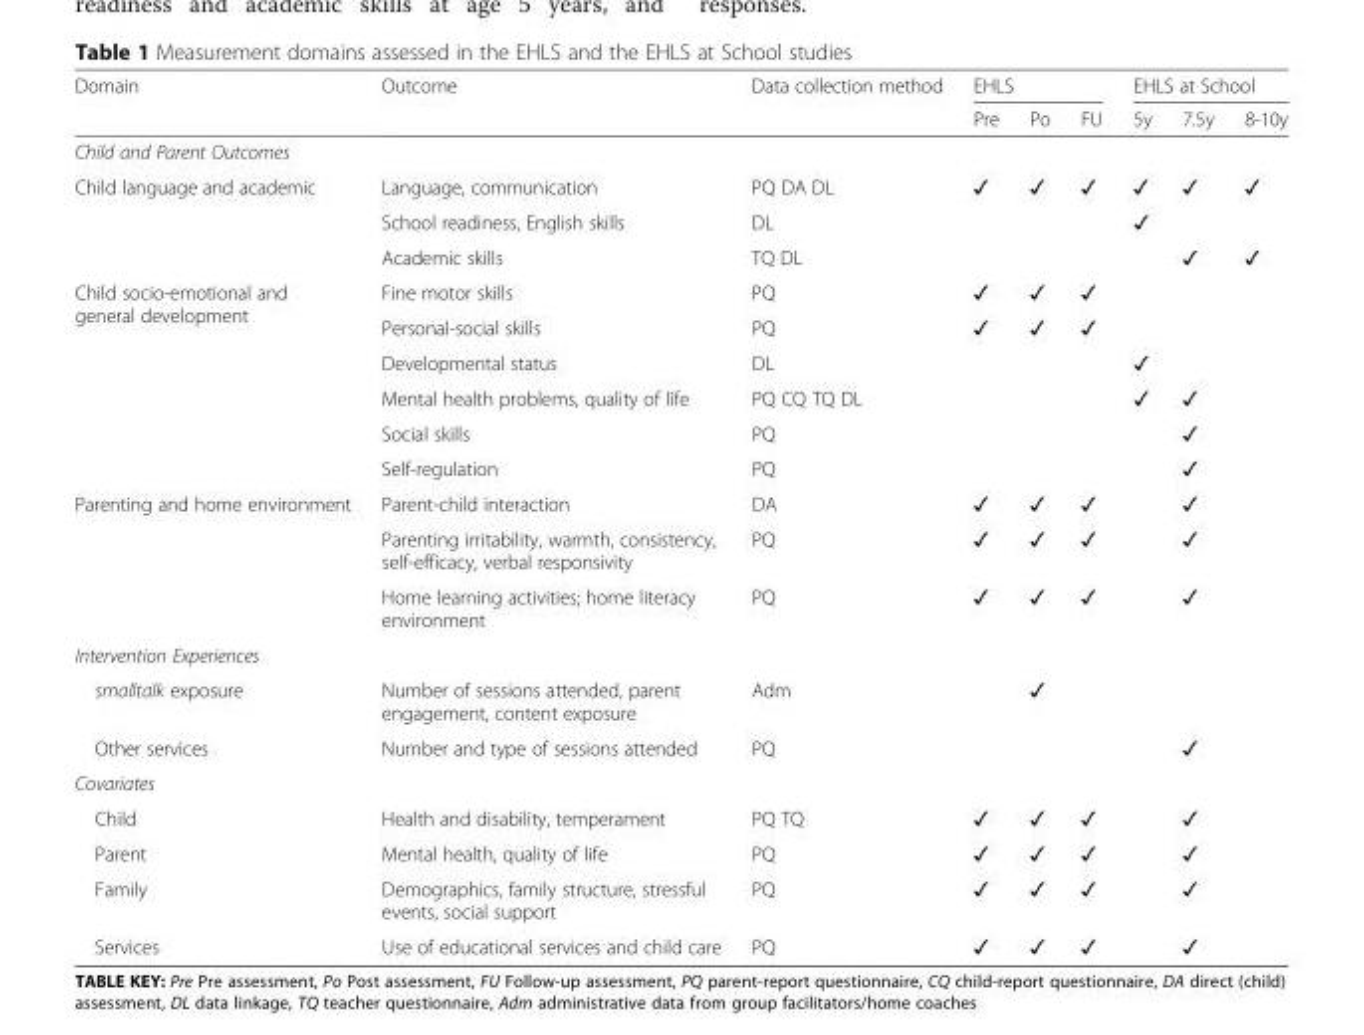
<table><thead><tr><td rowspan="2">Domain</td><td rowspan="2">Outcome</td><td rowspan="2">Data collection method</td><td colspan="3">EHLS</td><td colspan="3">EHLS at School</td></tr><tr><td>Pre</td><td>Po</td><td>FU</td><td>5y</td><td>7.5y</td><td>8-10y</td></tr></thead><tbody><tr><td colspan="9">Child and Parent Outcomes</td></tr><tr><td rowspan="3">Child language and academic</td><td>Language, communication</td><td>PQ DA DL</td><td>✓</td><td>✓</td><td>✓</td><td>✓</td><td>✓</td><td>✓</td></tr><tr><td>School readiness, English skills</td><td>DL</td><td></td><td></td><td></td><td>✓</td><td></td><td></td></tr><tr><td>Academic skills</td><td>TQ DL</td><td></td><td></td><td></td><td></td><td>✓</td><td>✓</td></tr><tr><td rowspan="6">Child socio-emotional and general development</td><td>Fine motor skills</td><td>PQ</td><td>✓</td><td>✓</td><td>✓</td><td></td><td></td><td></td></tr><tr><td>Personal-social skills</td><td>PQ</td><td>✓</td><td>✓</td><td>✓</td><td></td><td></td><td></td></tr><tr><td>Developmental status</td><td>DL</td><td></td><td></td><td></td><td>✓</td><td></td><td></td></tr><tr><td>Mental health problems, quality of life</td><td>PQ CQ TQ DL</td><td></td><td></td><td></td><td>✓</td><td>✓</td><td></td></tr><tr><td>Social skills</td><td>PQ</td><td></td><td></td><td></td><td></td><td>✓</td><td></td></tr><tr><td>Self-regulation</td><td>PQ</td><td></td><td></td><td></td><td></td><td>✓</td><td></td></tr><tr><td rowspan="3">Parenting and home environment</td><td>Parent-child interaction</td><td>DA</td><td>✓</td><td>✓</td><td>✓</td><td></td><td>✓</td><td></td></tr><tr><td>Parenting irritability, warmth, consistency, self-efficacy, verbal responsivity</td><td>PQ</td><td>✓</td><td>✓</td><td>✓</td><td></td><td>✓</td><td></td></tr><tr><td>Home learning activities; home literacy environment</td><td>PQ</td><td>✓</td><td>✓</td><td>✓</td><td></td><td>✓</td><td></td></tr><tr><td colspan="9">Intervention Experiences</td></tr><tr><td>smalltalk exposure</td><td>Number of sessions attended, parent engagement, content exposure</td><td>Adm</td><td></td><td>✓</td><td></td><td></td><td></td><td></td></tr><tr><td>Other services</td><td>Number and type of sessions attended</td><td>PQ</td><td></td><td></td><td></td><td></td><td>✓</td><td></td></tr><tr><td colspan="9">Covariates</td></tr><tr><td>Child</td><td>Health and disability, temperament</td><td>PQ TQ</td><td>✓</td><td>✓</td><td>✓</td><td></td><td>✓</td><td></td></tr><tr><td>Parent</td><td>Mental health, quality of life</td><td>PQ</td><td>✓</td><td>✓</td><td>✓</td><td></td><td>✓</td><td></td></tr><tr><td>Family</td><td>Demographics, family structure, stressful events, social support</td><td>PQ</td><td>✓</td><td>✓</td><td>✓</td><td></td><td>✓</td><td></td></tr><tr><td>Services</td><td>Use of educational services and child care</td><td>PQ</td><td>✓</td><td>✓</td><td>✓</td><td></td><td>✓</td><td></td></tr></tbody></table>